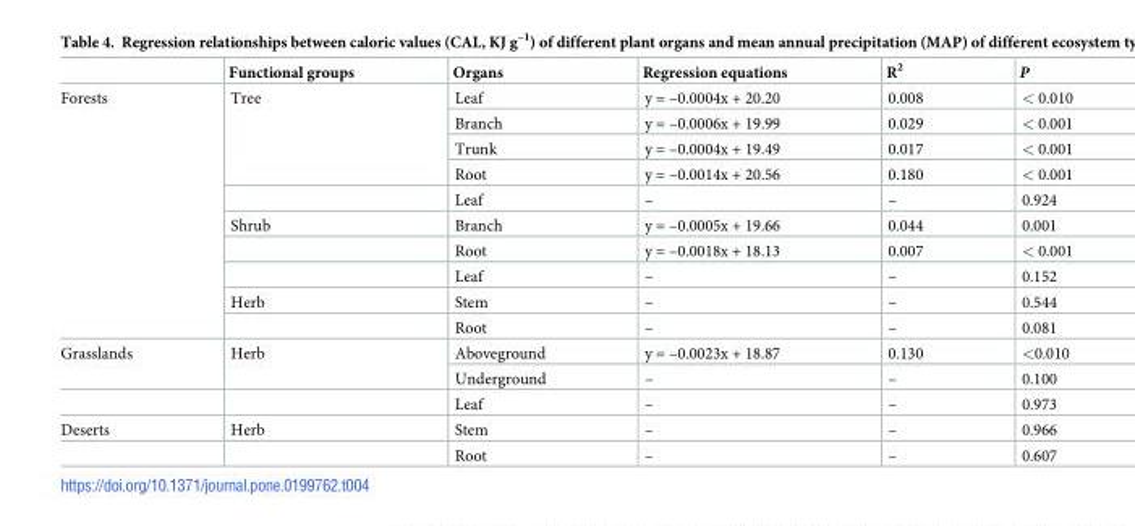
<table><thead><tr><td></td><td>Functional groups</td><td>Organs</td><td>Regression equations</td><td>R<sup>2</sup></td><td>P</td></tr></thead><tbody><tr><td rowspan="10">Forests</td><td rowspan="4">Tree</td><td>Leaf</td><td>y = –0.0004x + 20.20</td><td>0.008</td><td>&lt; 0.010</td></tr><tr><td>Branch</td><td>y = –0.0006x + 19.99</td><td>0.029</td><td>&lt; 0.001</td></tr><tr><td>Trunk</td><td>y = –0.0004x + 19.49</td><td>0.017</td><td>&lt; 0.001</td></tr><tr><td>Root</td><td>y = –0.0014x + 20.56</td><td>0.180</td><td>&lt; 0.001</td></tr><tr><td></td><td>Leaf</td><td>–</td><td>–</td><td>0.924</td></tr><tr><td>Shrub</td><td>Branch</td><td>y = –0.0005x + 19.66</td><td>0.044</td><td>0.001</td></tr><tr><td></td><td>Root</td><td>y = –0.0018x + 18.13</td><td>0.007</td><td>&lt; 0.001</td></tr><tr><td></td><td>Leaf</td><td>–</td><td>–</td><td>0.152</td></tr><tr><td>Herb</td><td>Stem</td><td>–</td><td>–</td><td>0.544</td></tr><tr><td></td><td>Root</td><td>–</td><td>–</td><td>0.081</td></tr><tr><td rowspan="3">Grasslands</td><td rowspan="2">Herb</td><td>Aboveground</td><td>y = –0.0023x + 18.87</td><td>0.130</td><td>&lt;0.010</td></tr><tr><td>Underground</td><td>–</td><td>–</td><td>0.100</td></tr><tr><td></td><td>Leaf</td><td>–</td><td>–</td><td>0.973</td></tr><tr><td rowspan="2">Deserts</td><td>Herb</td><td>Stem</td><td>–</td><td>–</td><td>0.966</td></tr><tr><td></td><td>Root</td><td>–</td><td>–</td><td>0.607</td></tr></tbody></table>